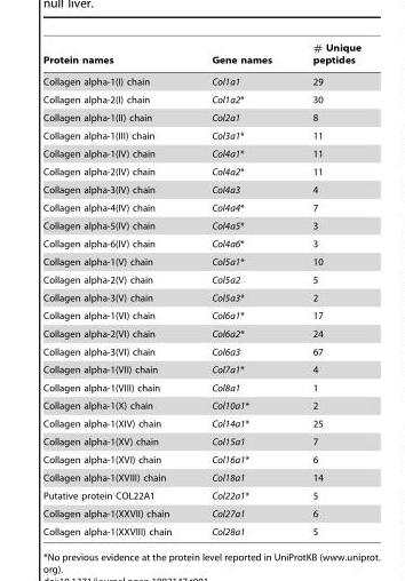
<table><thead><tr><td>Protein names</td><td>Gene names</td><td># Unique peptides</td></tr></thead><tbody><tr><td>Collagen alpha-1(I) chain</td><td>Col1a1</td><td>29</td></tr><tr><td>Collagen alpha-2(I) chain</td><td>Col1a2*</td><td>30</td></tr><tr><td>Collagen alpha-1(II) chain</td><td>Col2a1</td><td>8</td></tr><tr><td>Collagen alpha-1(III) chain</td><td>Col3a1*</td><td>11</td></tr><tr><td>Collagen alpha-1(IV) chain</td><td>Col4a1*</td><td>11</td></tr><tr><td>Collagen alpha-2(IV) chain</td><td>Col4a2*</td><td>11</td></tr><tr><td>Collagen alpha-3(IV) chain</td><td>Col4a3</td><td>4</td></tr><tr><td>Collagen alpha-4(IV) chain</td><td>Col4a4*</td><td>7</td></tr><tr><td>Collagen alpha-5(IV) chain</td><td>Col4a5*</td><td>3</td></tr><tr><td>Collagen alpha-6(IV) chain</td><td>Col4a6*</td><td>3</td></tr><tr><td>Collagen alpha-1(V) chain</td><td>Col5a1*</td><td>10</td></tr><tr><td>Collagen alpha-2(V) chain</td><td>Col5a2</td><td>5</td></tr><tr><td>Collagen alpha-3(V) chain</td><td>Col5a3*</td><td>2</td></tr><tr><td>Collagen alpha-1(VI) chain</td><td>Col6a1*</td><td>17</td></tr><tr><td>Collagen alpha-2(VI) chain</td><td>Col6a2*</td><td>24</td></tr><tr><td>Collagen alpha-3(VI) chain</td><td>Col6a3</td><td>67</td></tr><tr><td>Collagen alpha-1(VII) chain</td><td>Col7a1*</td><td>4</td></tr><tr><td>Collagen alpha-1(VIII) chain</td><td>Col8a1</td><td>1</td></tr><tr><td>Collagen alpha-1(X) chain</td><td>Col10a1*</td><td>2</td></tr><tr><td>Collagen alpha-1(XIV) chain</td><td>Col14a1*</td><td>25</td></tr><tr><td>Collagen alpha-1(XV) chain</td><td>Col15a1</td><td>7</td></tr><tr><td>Collagen alpha-1(XVI) chain</td><td>Col16a1*</td><td>6</td></tr><tr><td>Collagen alpha-1(XVIII) chain</td><td>Col18a1</td><td>14</td></tr><tr><td>Putative protein COL22A1</td><td>Col22a1*</td><td>5</td></tr><tr><td>Collagen alpha-1(XXVII) chain</td><td>Col27a1</td><td>6</td></tr><tr><td>Collagen alpha-1(XXVIII) chain</td><td>Col28a1</td><td>5</td></tr></tbody></table>